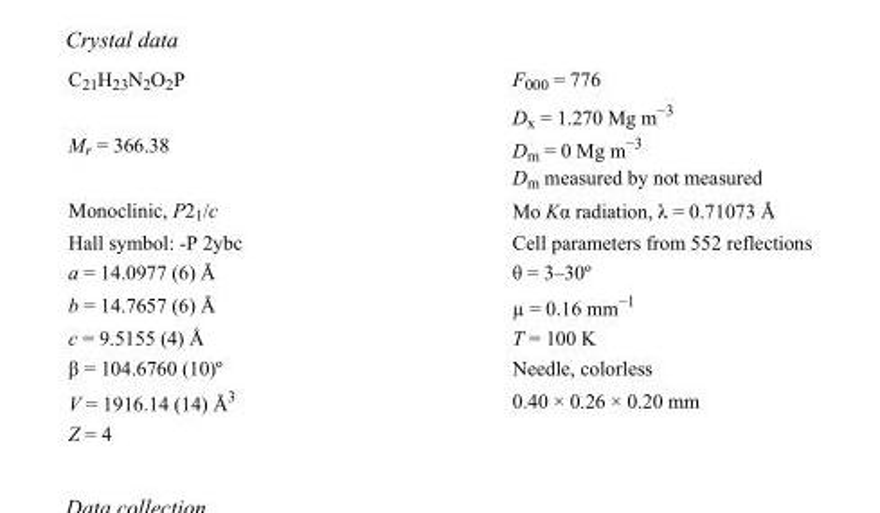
<table><tbody><tr><td>C<sub>21</sub>H<sub>23</sub>N<sub>2</sub>O<sub>2</sub>P</td><td>F000 = 776</td></tr><tr><td>M<sub>r</sub> = 366.38</td><td>D<sub>x</sub> = 1.270 Mg m<sup>−3</sup> D<sub>m</sub> = 0 Mg m<sup>−3</sup> D<sub>m</sub> measured by not measured</td></tr><tr><td>Monoclinic, P2<sub>1</sub>/c</td><td>Mo Kα radiation, λ = 0.71073 Å</td></tr><tr><td>Hall symbol: -P 2ybc</td><td>Cell parameters from 552 reflections</td></tr><tr><td>a = 14.0977 (6) Å</td><td>θ = 3–30º</td></tr><tr><td>b = 14.7657 (6) Å</td><td>µ = 0.16 mm<sup>−1</sup></td></tr><tr><td>c = 9.5155 (4) Å</td><td>T = 100 K</td></tr><tr><td>β = 104.6760 (10)º</td><td>Needle, colorless</td></tr><tr><td>V = 1916.14 (14) Å<sup>3</sup></td><td>0.40 × 0.26 × 0.20 mm</td></tr><tr><td>Z = 4</td><td></td></tr></tbody></table>